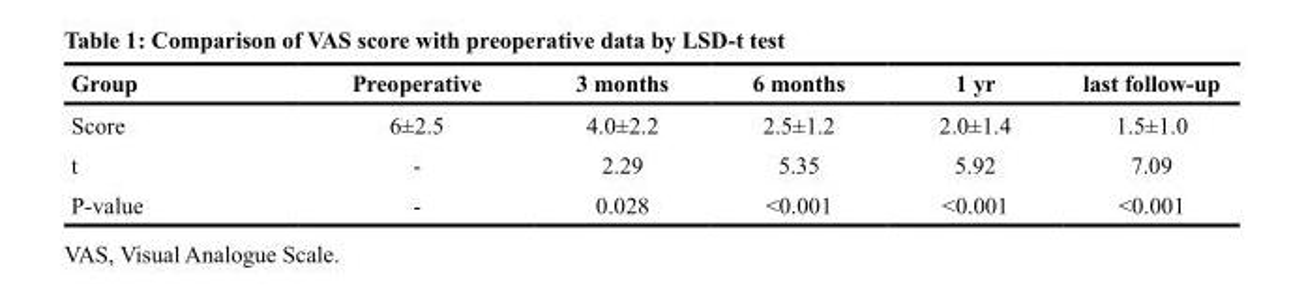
<table><thead><tr><td>Group</td><td>Preoperative</td><td>3 months</td><td>6 months</td><td>1 yr</td><td>last follow-up</td></tr></thead><tbody><tr><td>Score</td><td>6±2.5</td><td>4.0±2.2</td><td>2.5±1.2</td><td>2.0±1.4</td><td>1.5±1.0</td></tr><tr><td>t</td><td>-</td><td>2.29</td><td>5.35</td><td>5.92</td><td>7.09</td></tr><tr><td>P-value</td><td>-</td><td>0.028</td><td>&lt;0.001</td><td>&lt;0.001</td><td>&lt;0.001</td></tr></tbody></table>